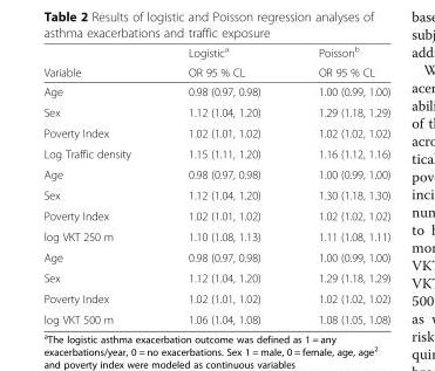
<table><thead><tr><td rowspan="2">Variable</td><td rowspan="2">Logistic<sup>a</sup> OR 95 % CL</td><td rowspan="2">Poisson<sup>b</sup> OR 95 % CL</td></tr><tr></tr></thead><tbody><tr><td>Age</td><td>0.98 (0.97, 0.98)</td><td>1.00 (0.99, 1.00)</td></tr><tr><td>Sex</td><td>1.12 (1.04, 1.20)</td><td>1.29 (1.18, 1.29)</td></tr><tr><td>Poverty Index</td><td>1.02 (1.01, 1.02)</td><td>1.02 (1.02, 1.02)</td></tr><tr><td>Log Traffic density</td><td>1.15 (1.11, 1.20)</td><td>1.16 (1.12, 1.16)</td></tr><tr><td>Age</td><td>0.98 (0.97, 0.98)</td><td>1.00 (0.99, 1.00)</td></tr><tr><td>Sex</td><td>1.12 (1.04, 1.20)</td><td>1.30 (1.18, 1.30)</td></tr><tr><td>Poverty Index</td><td>1.02 (1.01, 1.02)</td><td>1.02 (1.02, 1.02)</td></tr><tr><td>log VKT 250 m</td><td>1.10 (1.08, 1.13)</td><td>1.11 (1.08, 1.11)</td></tr><tr><td>Age</td><td>0.98 (0.97, 0.98)</td><td>1.00 (0.99, 1.00)</td></tr><tr><td>Sex</td><td>1.12 (1.04, 1.20)</td><td>1.29 (1.18, 1.29)</td></tr><tr><td>Poverty Index</td><td>1.02 (1.01, 1.02)</td><td>1.02 (1.02, 1.02)</td></tr><tr><td>log VKT 500 m</td><td>1.06 (1.04, 1.08)</td><td>1.08 (1.05, 1.08)</td></tr></tbody></table>